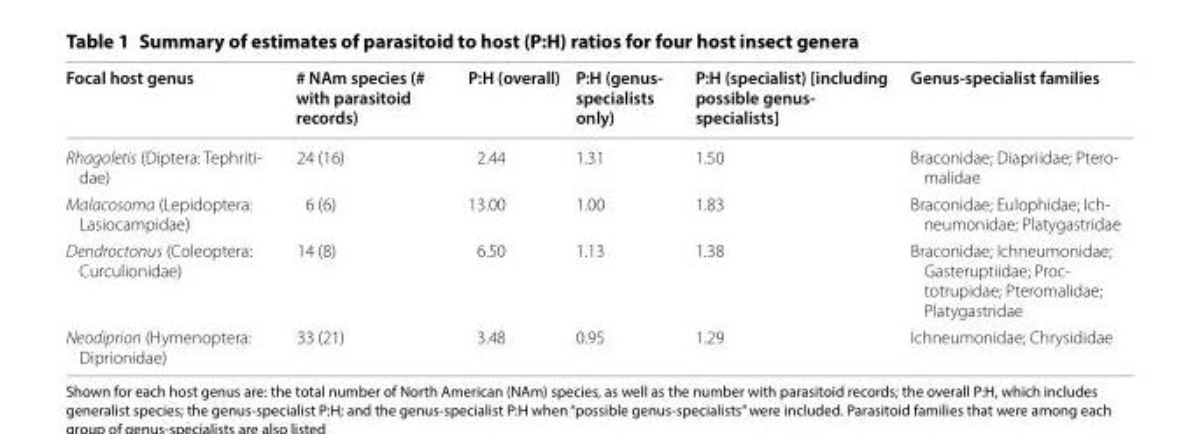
<table><thead><tr><td>Focal host genus</td><td># NAm species (# with parasitoid records)</td><td>P:H (overall)</td><td>P:H (genus- specialists only)</td><td>P:H (specialist) [including possible genus- specialists]</td><td>Genus-specialist families</td></tr></thead><tbody><tr><td>Rhagoletis (Diptera: Tephriti- dae)</td><td>24 (16)</td><td>2.44</td><td>1.31</td><td>1.50</td><td>Braconidae; Diapriidae; Ptero- malidae</td></tr><tr><td>Malacosoma (Lepidoptera: Lasiocampidae)</td><td>6 (6)</td><td>13.00</td><td>1.00</td><td>1.83</td><td>Braconidae; Eulophidae; Ich- neumonidae; Platygastridae</td></tr><tr><td>Dendroctonus (Coleoptera: Curculionidae)</td><td>14 (8)</td><td>6.50</td><td>1.13</td><td>1.38</td><td>Braconidae; Ichneumonidae; Gasteruptiidae; Proc- totrupidae; Pteromalidae; Platygastridae</td></tr><tr><td>Neodiprion (Hymenoptera: Diprionidae)</td><td>33 (21)</td><td>3.48</td><td>0.95</td><td>1.29</td><td>Ichneumonidae; Chrysididae</td></tr></tbody></table>